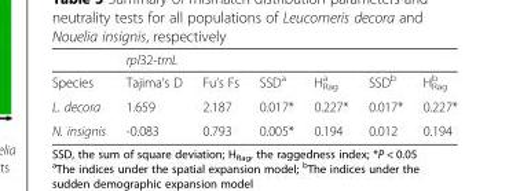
<table><thead><tr><td></td><td>rpl32-trnL</td><td></td><td></td><td></td><td></td><td></td></tr></thead><tbody><tr><td>Species</td><td>Tajima’s D</td><td>Fu’s Fs</td><td>SSD<sup>a</sup></td><td>H<sub>Rag</sub> <sup>a</sup></td><td>SSD<sup>b</sup></td><td>H<sub>Rag</sub> <sup>b</sup></td></tr><tr><td>L. decora</td><td>1.659</td><td>2.187</td><td>0.017*</td><td>0.227*</td><td>0.017*</td><td>0.227*</td></tr><tr><td>N. insignis</td><td>-0.083</td><td>0.793</td><td>0.005*</td><td>0.194</td><td>0.012</td><td>0.194</td></tr></tbody></table>